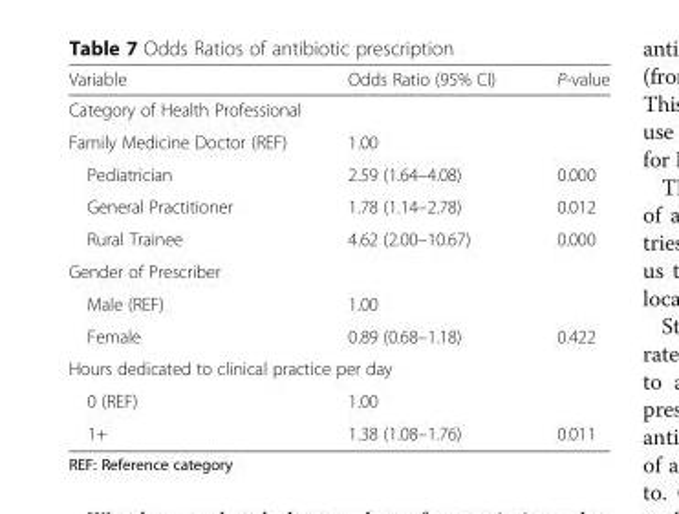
<table><thead><tr><td>Variable</td><td>Odds Ratio (95% CI)</td><td>P-value</td></tr></thead><tbody><tr><td colspan="3">Category of Health Professional</td></tr><tr><td>Family Medicine Doctor (REF)</td><td>1.00</td><td></td></tr><tr><td>Pediatrician</td><td>2.59 (1.64–4.08)</td><td>0.000</td></tr><tr><td>General Practitioner</td><td>1.78 (1.14–2.78)</td><td>0.012</td></tr><tr><td>Rural Trainee</td><td>4.62 (2.00–10.67)</td><td>0.000</td></tr><tr><td colspan="3">Gender of Prescriber</td></tr><tr><td>Male (REF)</td><td>1.00</td><td></td></tr><tr><td>Female</td><td>0.89 (0.68–1.18)</td><td>0.422</td></tr><tr><td colspan="3">Hours dedicated to clinical practice per day</td></tr><tr><td>0 (REF)</td><td>1.00</td><td></td></tr><tr><td>1+</td><td>1.38 (1.08–1.76)</td><td>0.011</td></tr></tbody></table>